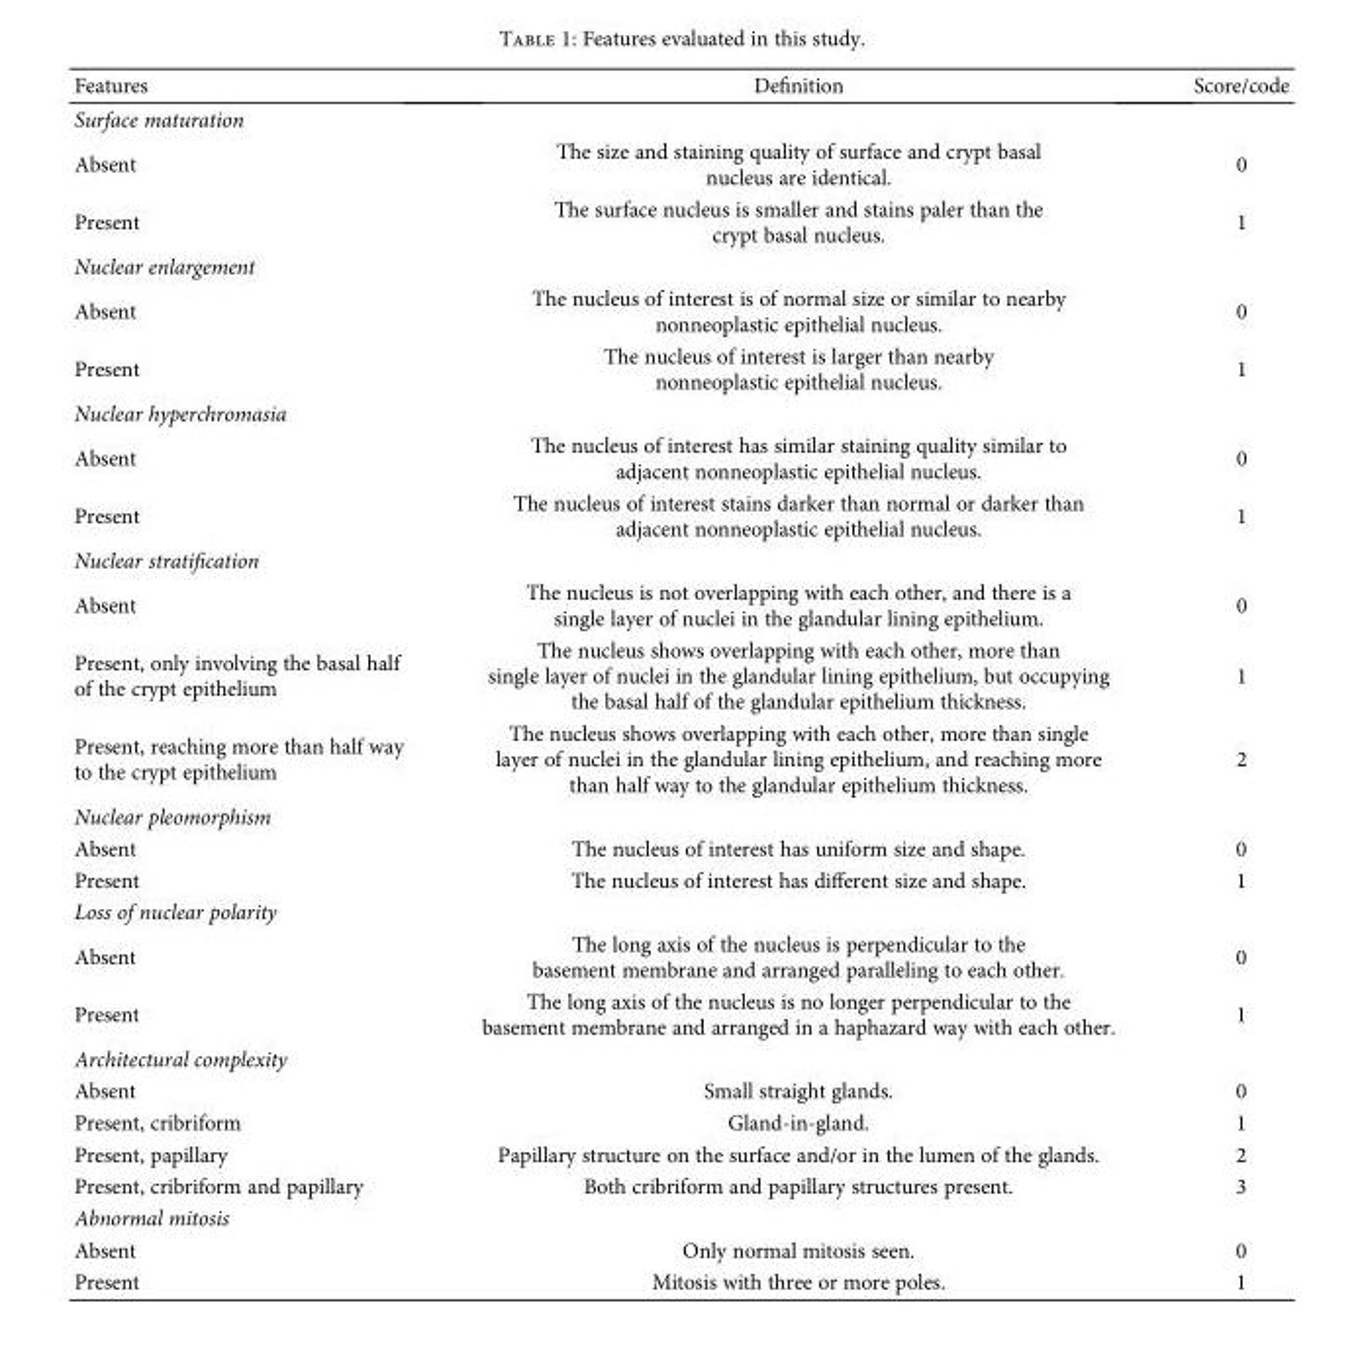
<table><thead><tr><td>Features</td><td>Definition</td><td>Score/code</td></tr></thead><tbody><tr><td colspan="3">Surface maturation</td></tr><tr><td>Absent</td><td>The size and staining quality of surface and crypt basal nucleus are identical.</td><td>0</td></tr><tr><td>Present</td><td>The surface nucleus is smaller and stains paler than the crypt basal nucleus.</td><td>1</td></tr><tr><td colspan="3">Nuclear enlargement</td></tr><tr><td>Absent</td><td>The nucleus of interest is of normal size or similar to nearby nonneoplastic epithelial nucleus.</td><td>0</td></tr><tr><td>Present</td><td>The nucleus of interest is larger than nearby nonneoplastic epithelial nucleus.</td><td>1</td></tr><tr><td colspan="3">Nuclear hyperchromasia</td></tr><tr><td>Absent</td><td>The nucleus of interest has similar staining quality similar to adjacent nonneoplastic epithelial nucleus.</td><td>0</td></tr><tr><td>Present</td><td>The nucleus of interest stains darker than normal or darker than adjacent nonneoplastic epithelial nucleus.</td><td>1</td></tr><tr><td colspan="3">Nuclear stratification</td></tr><tr><td>Absent</td><td>The nucleus is not overlapping with each other, and there is a single layer of nuclei in the glandular lining epithelium.</td><td>0</td></tr><tr><td>Present, only involving the basal half of the crypt epithelium</td><td>The nucleus shows overlapping with each other, more than single layer of nuclei in the glandular lining epithelium, but occupying the basal half of the glandular epithelium thickness.</td><td>1</td></tr><tr><td>Present, reaching more than half way to the crypt epithelium</td><td>The nucleus shows overlapping with each other, more than single layer of nuclei in the glandular lining epithelium, and reaching more than half way to the glandular epithelium thickness.</td><td>2</td></tr><tr><td colspan="3">Nuclear pleomorphism</td></tr><tr><td>Absent</td><td>The nucleus of interest has uniform size and shape.</td><td>0</td></tr><tr><td>Present</td><td>The nucleus of interest has different size and shape.</td><td>1</td></tr><tr><td colspan="3">Loss of nuclear polarity</td></tr><tr><td>Absent</td><td>The long axis of the nucleus is perpendicular to the basement membrane and arranged paralleling to each other.</td><td>0</td></tr><tr><td>Present</td><td>The long axis of the nucleus is no longer perpendicular to the basement membrane and arranged in a haphazard way with each other.</td><td>1</td></tr><tr><td colspan="3">Architectural complexity</td></tr><tr><td>Absent</td><td>Small straight glands.</td><td>0</td></tr><tr><td>Present, cribriform</td><td>Gland-in-gland.</td><td>1</td></tr><tr><td>Present, papillary</td><td>Papillary structure on the surface and/or in the lumen of the glands.</td><td>2</td></tr><tr><td>Present, cribriform and papillary</td><td>Both cribriform and papillary structures present.</td><td>3</td></tr><tr><td colspan="3">Abnormal mitosis</td></tr><tr><td>Absent</td><td>Only normal mitosis seen.</td><td>0</td></tr><tr><td>Present</td><td>Mitosis with three or more poles.</td><td>1</td></tr></tbody></table>